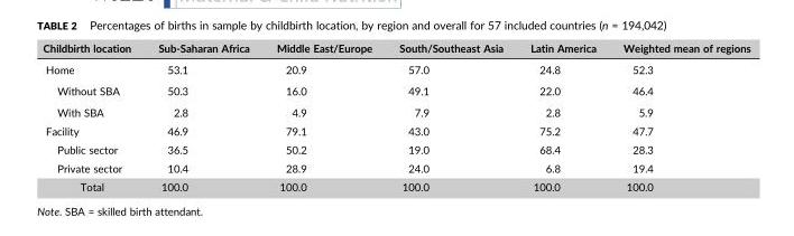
<table><thead><tr><td>Childbirth location</td><td>Sub‐Saharan Africa</td><td>Middle East/Europe</td><td>South/Southeast Asia</td><td>Latin America</td><td>Weighted mean of regions</td></tr></thead><tbody><tr><td>Home</td><td>53.1</td><td>20.9</td><td>57.0</td><td>24.8</td><td>52.3</td></tr><tr><td>Without SBA</td><td>50.3</td><td>16.0</td><td>49.1</td><td>22.0</td><td>46.4</td></tr><tr><td>With SBA</td><td>2.8</td><td>4.9</td><td>7.9</td><td>2.8</td><td>5.9</td></tr><tr><td>Facility</td><td>46.9</td><td>79.1</td><td>43.0</td><td>75.2</td><td>47.7</td></tr><tr><td>Public sector</td><td>36.5</td><td>50.2</td><td>19.0</td><td>68.4</td><td>28.3</td></tr><tr><td>Private sector</td><td>10.4</td><td>28.9</td><td>24.0</td><td>6.8</td><td>19.4</td></tr><tr><td>Total</td><td>100.0</td><td>100.0</td><td>100.0</td><td>100.0</td><td>100.0</td></tr></tbody></table>